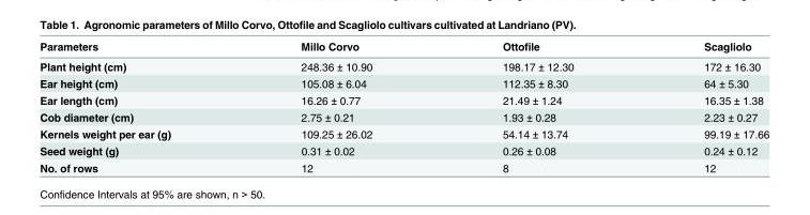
<table><thead><tr><td>Parameters</td><td>Millo Corvo</td><td>Ottofile</td><td>Scagliolo</td></tr></thead><tbody><tr><td>Plant height (cm)</td><td>248.36 ± 10.90</td><td>198.17 ± 12.30</td><td>172 ± 16.30</td></tr><tr><td>Ear height (cm)</td><td>105.08 ± 6.04</td><td>112.35 ± 8.30</td><td>64 ± 5.30</td></tr><tr><td>Ear length (cm)</td><td>16.26 ± 0.77</td><td>21.49 ± 1.24</td><td>16.35 ± 1.38</td></tr><tr><td>Cob diameter (cm)</td><td>2.75 ± 0.21</td><td>1.93 ± 0.28</td><td>2.23 ± 0.27</td></tr><tr><td>Kernels weight per ear (g)</td><td>109.25 ± 26.02</td><td>54.14 ± 13.74</td><td>99.19 ± 17.66</td></tr><tr><td>Seed weight (g)</td><td>0.31 ± 0.02</td><td>0.26 ± 0.08</td><td>0.24 ± 0.12</td></tr><tr><td>No. of rows</td><td>12</td><td>8</td><td>12</td></tr></tbody></table>